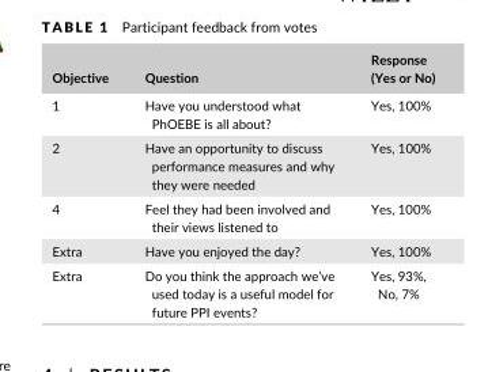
<table><thead><tr><td>Objective</td><td>Question</td><td>Response (Yes or No)</td></tr></thead><tbody><tr><td>1</td><td>Have you understood what PhOEBE is all about?</td><td>Yes, 100%</td></tr><tr><td>2</td><td>Have an opportunity to discuss performance measures and why they were needed</td><td>Yes, 100%</td></tr><tr><td>4</td><td>Feel they had been involved and their views listened to</td><td>Yes, 100%</td></tr><tr><td>Extra</td><td>Have you enjoyed the day?</td><td>Yes, 100%</td></tr><tr><td>Extra</td><td>Do you think the approach we’ve used today is a useful model for future PPI events?</td><td>Yes, 93%, No, 7%</td></tr></tbody></table>